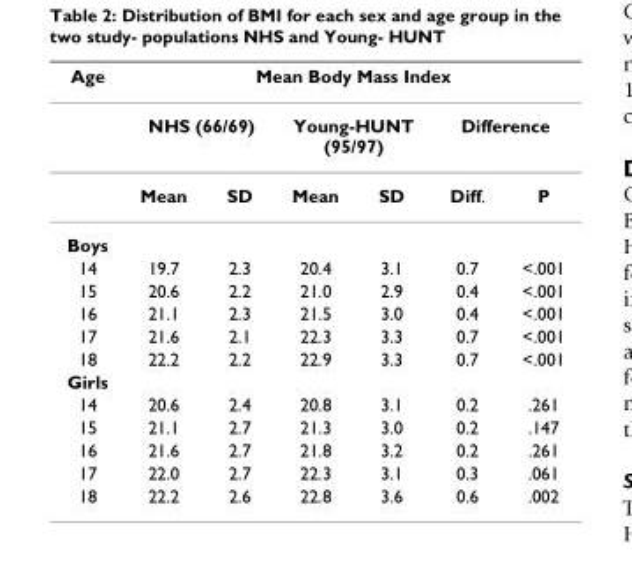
<table><thead><tr><td rowspan="3">Age</td><td colspan="6">Mean Body Mass Index</td></tr><tr><td colspan="2">NHS (66/69)</td><td colspan="2">Young-HUNT (95/97)</td><td colspan="2">Difference</td></tr><tr><td>Mean</td><td>SD</td><td>Mean</td><td>SD</td><td>Diff.</td><td>P</td></tr></thead><tbody><tr><td colspan="7">Boys</td></tr><tr><td>14</td><td>19.7</td><td>2.3</td><td>20.4</td><td>3.1</td><td>0.7</td><td>&lt;.001</td></tr><tr><td>15</td><td>20.6</td><td>2.2</td><td>21.0</td><td>2.9</td><td>0.4</td><td>&lt;.001</td></tr><tr><td>16</td><td>21.1</td><td>2.3</td><td>21.5</td><td>3.0</td><td>0.4</td><td>&lt;.001</td></tr><tr><td>17</td><td>21.6</td><td>2.1</td><td>22.3</td><td>3.3</td><td>0.7</td><td>&lt;.001</td></tr><tr><td>18</td><td>22.2</td><td>2.2</td><td>22.9</td><td>3.3</td><td>0.7</td><td>&lt;.001</td></tr><tr><td colspan="7">Girls</td></tr><tr><td>14</td><td>20.6</td><td>2.4</td><td>20.8</td><td>3.1</td><td>0.2</td><td>.261</td></tr><tr><td>15</td><td>21.1</td><td>2.7</td><td>21.3</td><td>3.0</td><td>0.2</td><td>.147</td></tr><tr><td>16</td><td>21.6</td><td>2.7</td><td>21.8</td><td>3.2</td><td>0.2</td><td>.261</td></tr><tr><td>17</td><td>22.0</td><td>2.7</td><td>22.3</td><td>3.1</td><td>0.3</td><td>.061</td></tr><tr><td>18</td><td>22.2</td><td>2.6</td><td>22.8</td><td>3.6</td><td>0.6</td><td>.002</td></tr></tbody></table>